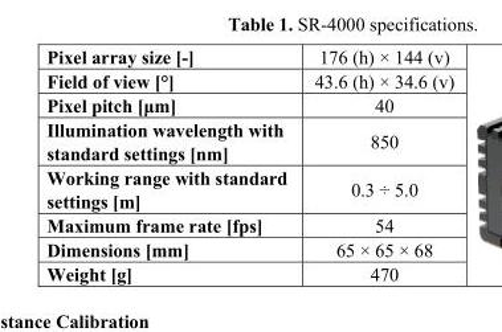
<table><tbody><tr><td>Pixel array size [-]</td><td>176 (h) × 144 (v)</td></tr><tr><td>Field of view [°]</td><td>43.6 (h) × 34.6 (v)</td></tr><tr><td>Pixel pitch [μm]</td><td>40</td></tr><tr><td>Illumination wavelength with standard settings [nm]</td><td>850</td></tr><tr><td>Working range with standard settings [m]</td><td>0.3 ÷ 5.0</td></tr><tr><td>Maximum frame rate [fps]</td><td>54</td></tr><tr><td>Dimensions [mm]</td><td>65 × 65 × 68</td></tr><tr><td>Weight [g]</td><td>470</td></tr></tbody></table>